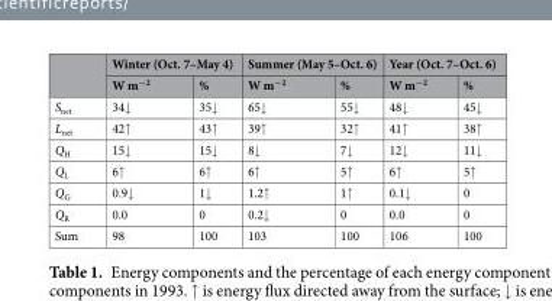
<table><thead><tr><td rowspan="2"></td><td colspan="2">Winter (Oct. 7–May 4)</td><td colspan="2">Summer (May 5–Oct. 6)</td><td colspan="2">Year (Oct. 7–Oct. 6)</td></tr><tr><td>W m<sup>−2</sup></td><td>%</td><td>W m<sup>−2</sup></td><td>%</td><td>W m<sup>−2</sup></td><td>%</td></tr></thead><tbody><tr><td>S<sub>net</sub></td><td>34↓</td><td>35↓</td><td>65↓</td><td>55↓</td><td>48↓</td><td>45↓</td></tr><tr><td>L<sub>net</sub></td><td>42↑</td><td>43↑</td><td>39↑</td><td>32↑</td><td>41↑</td><td>38↑</td></tr><tr><td>Q<sub>H</sub></td><td>15↓</td><td>15↓</td><td>8↓</td><td>7↓</td><td>12↓</td><td>11↓</td></tr><tr><td>Q<sub>L</sub></td><td>6↑</td><td>6↑</td><td>6↑</td><td>5↑</td><td>6↑</td><td>5↑</td></tr><tr><td>Q<sub>G</sub></td><td>0.9↓</td><td>1↓</td><td>1.2↑</td><td>1↑</td><td>0.1↓</td><td>0</td></tr><tr><td>Q<sub>R</sub></td><td>0.0</td><td>0</td><td>0.2↓</td><td>0</td><td>0.0</td><td>0</td></tr><tr><td>Sum</td><td>98</td><td>100</td><td>103</td><td>100</td><td>106</td><td>100</td></tr></tbody></table>